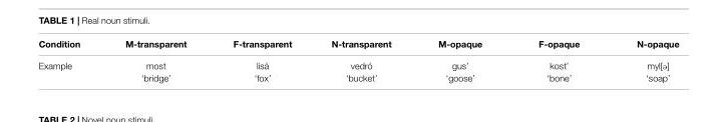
<table><thead><tr><td>Condition</td><td>M-transparent</td><td>F-transparent</td><td>N-transparent</td><td>M-opaque</td><td>F-opaque</td><td>N-opaque</td></tr></thead><tbody><tr><td>Example</td><td>most ‘bridge’</td><td>lisá ‘fox’</td><td>vedró ‘bucket’</td><td>gus’ ‘goose’</td><td>kost’ ‘bone’</td><td>myl[@] ‘soap’</td></tr></tbody></table>